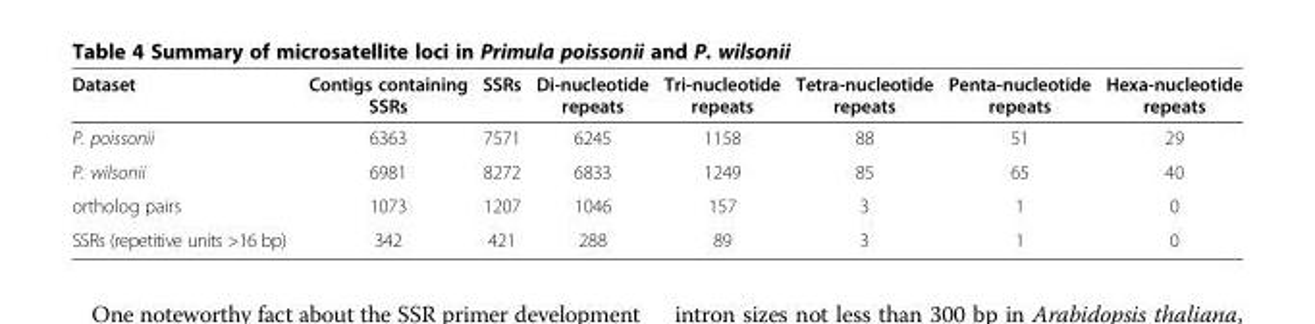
<table><thead><tr><td>Dataset</td><td>Contigs containing SSRs</td><td>SSRs</td><td>Di-nucleotide repeats</td><td>Tri-nucleotide repeats</td><td>Tetra-nucleotide repeats</td><td>Penta-nucleotide repeats</td><td>Hexa-nucleotide repeats</td></tr></thead><tbody><tr><td>P. poissonii</td><td>6363</td><td>7571</td><td>6245</td><td>1158</td><td>88</td><td>51</td><td>29</td></tr><tr><td>P. wilsonii</td><td>6981</td><td>8272</td><td>6833</td><td>1249</td><td>85</td><td>65</td><td>40</td></tr><tr><td>ortholog pairs</td><td>1073</td><td>1207</td><td>1046</td><td>157</td><td>3</td><td>1</td><td>0</td></tr><tr><td>SSRs (repetitive units &gt;16 bp)</td><td>342</td><td>421</td><td>288</td><td>89</td><td>3</td><td>1</td><td>0</td></tr></tbody></table>